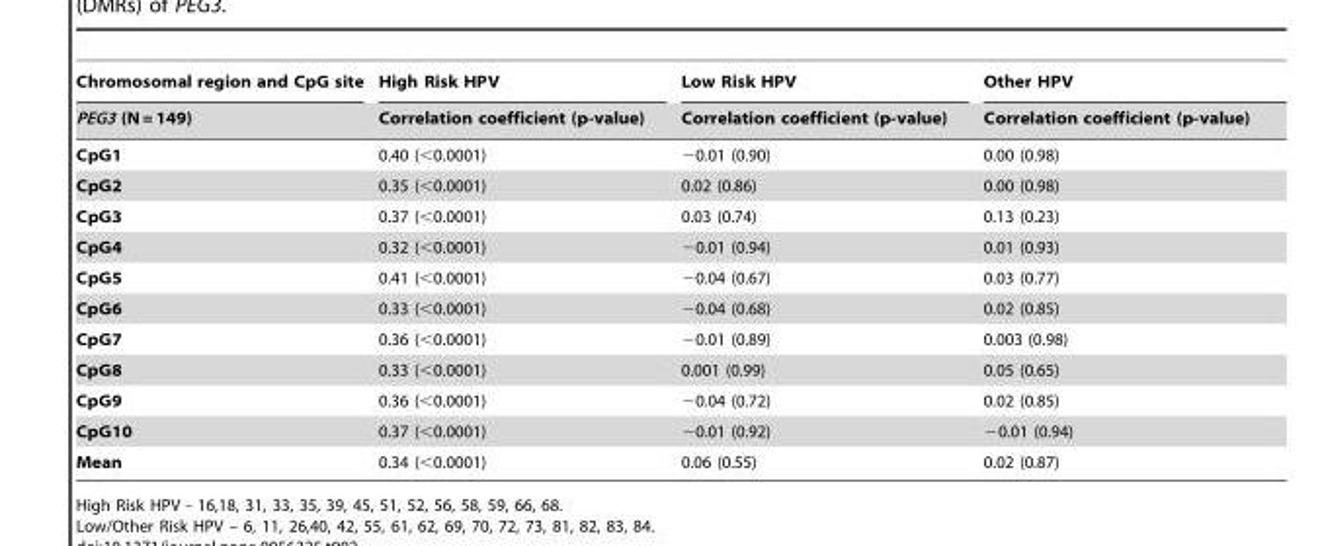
<table><thead><tr><td rowspan="2">Chromosomal region and CpG site PEG3 (N = 149)</td><td rowspan="2">High Risk HPV Correlation coefficient (p-value)</td><td rowspan="2">Low Risk HPV Correlation coefficient (p-value)</td><td rowspan="2">Other HPV Correlation coefficient (p-value)</td></tr><tr></tr></thead><tbody><tr><td>CpG1</td><td>0.40 (&lt;0.0001)</td><td>−0.01 (0.90)</td><td>0.00 (0.98)</td></tr><tr><td>CpG2</td><td>0.35 (&lt;0.0001)</td><td>0.02 (0.86)</td><td>0.00 (0.98)</td></tr><tr><td>CpG3</td><td>0.37 (&lt;0.0001)</td><td>0.03 (0.74)</td><td>0.13 (0.23)</td></tr><tr><td>CpG4</td><td>0.32 (&lt;0.0001)</td><td>−0.01 (0.94)</td><td>0.01 (0.93)</td></tr><tr><td>CpG5</td><td>0.41 (&lt;0.0001)</td><td>−0.04 (0.67)</td><td>0.03 (0.77)</td></tr><tr><td>CpG6</td><td>0.33 (&lt;0.0001)</td><td>−0.04 (0.68)</td><td>0.02 (0.85)</td></tr><tr><td>CpG7</td><td>0.36 (&lt;0.0001)</td><td>−0.01 (0.89)</td><td>0.003 (0.98)</td></tr><tr><td>CpG8</td><td>0.33 (&lt;0.0001)</td><td>0.001 (0.99)</td><td>0.05 (0.65)</td></tr><tr><td>CpG9</td><td>0.36 (&lt;0.0001)</td><td>−0.04 (0.72)</td><td>0.02 (0.85)</td></tr><tr><td>CpG10</td><td>0.37 (&lt;0.0001)</td><td>−0.01 (0.92)</td><td>−0.01 (0.94)</td></tr><tr><td>Mean</td><td>0.34 (&lt;0.0001)</td><td>0.06 (0.55)</td><td>0.02 (0.87)</td></tr></tbody></table>